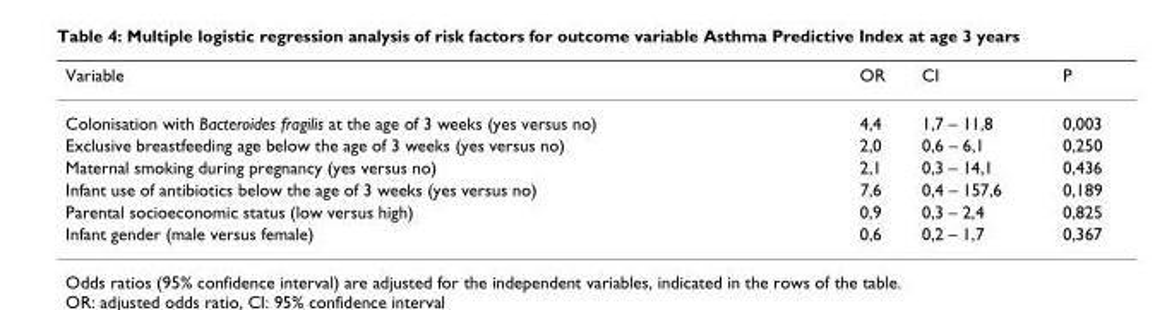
<table><thead><tr><td>Variable</td><td>OR</td><td>CI</td><td>P</td></tr></thead><tbody><tr><td>Colonisation with Bacteroides fragilis at the age of 3 weeks (yes versus no)</td><td>4,4</td><td>1,7 – 11,8</td><td>0,003</td></tr><tr><td>Exclusive breastfeeding age below the age of 3 weeks (yes versus no)</td><td>2,0</td><td>0,6 – 6,1</td><td>0,250</td></tr><tr><td>Maternal smoking during pregnancy (yes versus no)</td><td>2,1</td><td>0,3 – 14,1</td><td>0,436</td></tr><tr><td>Infant use of antibiotics below the age of 3 weeks (yes versus no)</td><td>7,6</td><td>0,4 – 157,6</td><td>0,189</td></tr><tr><td>Parental socioeconomic status (low versus high)</td><td>0,9</td><td>0,3 – 2,4</td><td>0,825</td></tr><tr><td>Infant gender (male versus female)</td><td>0,6</td><td>0,2 – 1,7</td><td>0,367</td></tr></tbody></table>